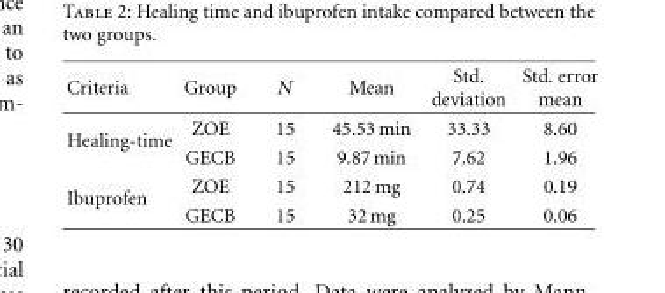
<table><thead><tr><td>Criteria</td><td>Group</td><td>N</td><td>Mean</td><td>Std. deviation</td><td>Std. error mean</td></tr></thead><tbody><tr><td rowspan="2">Healing-time</td><td>ZOE</td><td>15</td><td>45.53 min</td><td>33.33</td><td>8.60</td></tr><tr><td>GECB</td><td>15</td><td>9.87 min</td><td>7.62</td><td>1.96</td></tr><tr><td rowspan="2">Ibuprofen</td><td>ZOE</td><td>15</td><td>212 mg</td><td>0.74</td><td>0.19</td></tr><tr><td>GECB</td><td>15</td><td>32 mg</td><td>0.25</td><td>0.06</td></tr></tbody></table>